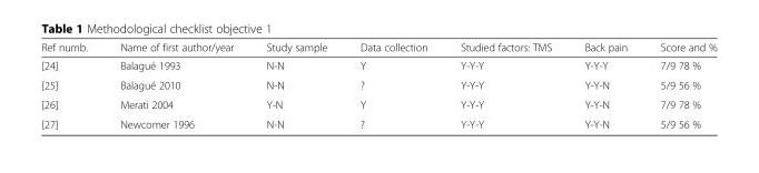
<table><thead><tr><td>Ref numb.</td><td>Name of first author/year</td><td>Study sample</td><td>Data collection</td><td>Studied factors: TMS</td><td>Back pain</td><td>Score and %</td></tr></thead><tbody><tr><td>[24]</td><td>Balagué 1993</td><td>N-N</td><td>Y</td><td>Y-Y-Y</td><td>Y-Y-Y</td><td>7/9 78 %</td></tr><tr><td>[25]</td><td>Balagué 2010</td><td>N-N</td><td>?</td><td>Y-Y-Y</td><td>Y-Y-N</td><td>5/9 56 %</td></tr><tr><td>[26]</td><td>Merati 2004</td><td>Y-N</td><td>Y</td><td>Y-Y-Y</td><td>Y-Y-N</td><td>7/9 78 %</td></tr><tr><td>[27]</td><td>Newcomer 1996</td><td>N-N</td><td>?</td><td>Y-Y-Y</td><td>Y-Y-N</td><td>5/9 56 %</td></tr></tbody></table>